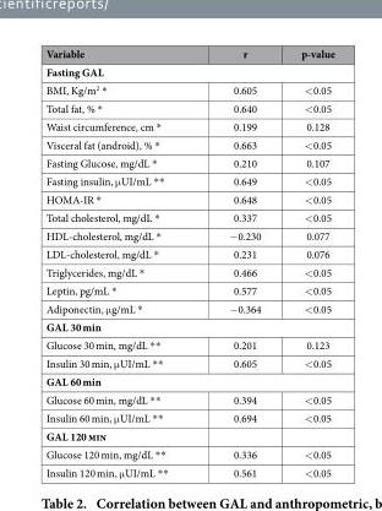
<table><thead><tr><td>Variable</td><td>r</td><td>p-value</td></tr></thead><tbody><tr><td colspan="3">Fasting GAL</td></tr><tr><td>BMI, Kg/m<sup>2</sup> *</td><td>0.605</td><td>&lt; 0.05</td></tr><tr><td>Total fat, % *</td><td>0.640</td><td>&lt; 0.05</td></tr><tr><td>Waist circumference, cm *</td><td>0.199</td><td>0.128</td></tr><tr><td>Visceral fat (android), % *</td><td>0.663</td><td>&lt; 0.05</td></tr><tr><td>Fasting Glucose, mg/dL *</td><td>0.210</td><td>0.107</td></tr><tr><td>Fasting insulin, μ UI/mL * *</td><td>0.649</td><td>&lt; 0.05</td></tr><tr><td>HOMA-IR *</td><td>0.648</td><td>&lt; 0.05</td></tr><tr><td>Total cholesterol, mg/dL *</td><td>0.337</td><td>&lt; 0.05</td></tr><tr><td>HDL-cholesterol, mg/dL *</td><td>− 0.230</td><td>0.077</td></tr><tr><td>LDL-cholesterol, mg/dL *</td><td>0.231</td><td>0.076</td></tr><tr><td>Triglycerides, mg/dL *</td><td>0.466</td><td>&lt; 0.05</td></tr><tr><td>Leptin, pg/mL *</td><td>0.577</td><td>&lt; 0.05</td></tr><tr><td>Adiponectin, μ g/mL *</td><td>− 0.364</td><td>&lt; 0.05</td></tr><tr><td colspan="3">GAL 30 min</td></tr><tr><td>Glucose 30 min, mg/dL * *</td><td>0.201</td><td>0.123</td></tr><tr><td>Insulin 30 min, μ UI/mL * *</td><td>0.605</td><td>&lt; 0.05</td></tr><tr><td colspan="3">GAL 60 min</td></tr><tr><td>Glucose 60 min, mg/dL * *</td><td>0.394</td><td>&lt; 0.05</td></tr><tr><td>Insulin 60 min, μ UI/mL * *</td><td>0.694</td><td>&lt; 0.05</td></tr><tr><td colspan="3">GAL 120 min</td></tr><tr><td>Glucose 120 min, mg/dL * *</td><td>0.336</td><td>&lt; 0.05</td></tr></tbody></table>